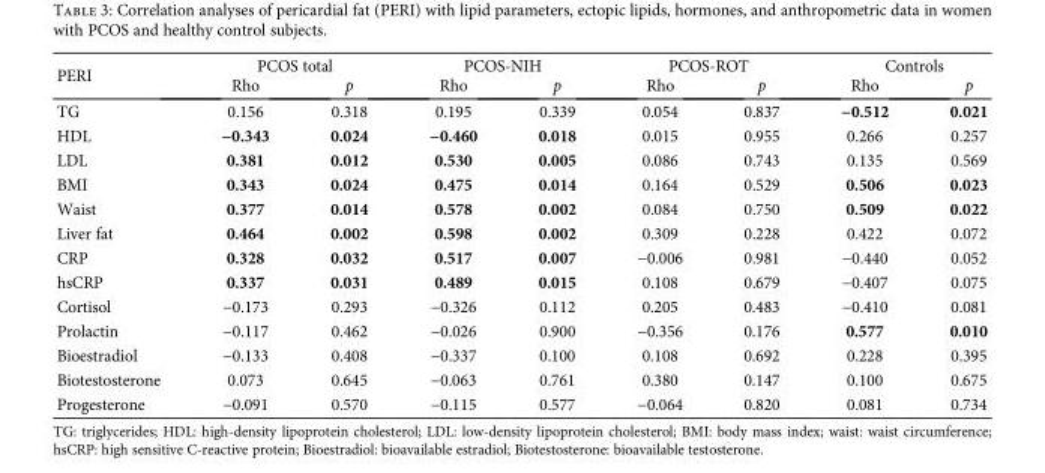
<table><thead><tr><td rowspan="2">PERI</td><td colspan="2">PCOS total</td><td colspan="2">PCOS-NIH</td><td colspan="2">PCOS-ROT</td><td colspan="2">Controls</td></tr><tr><td>Rho</td><td>p</td><td>Rho</td><td>p</td><td>Rho</td><td>p</td><td>Rho</td><td>p</td></tr></thead><tbody><tr><td>TG</td><td>0.156</td><td>0.318</td><td>0.195</td><td>0.339</td><td>0.054</td><td>0.837</td><td>−0.512</td><td>0.021</td></tr><tr><td>HDL</td><td>−0.343</td><td>0.024</td><td>−0.460</td><td>0.018</td><td>0.015</td><td>0.955</td><td>0.266</td><td>0.257</td></tr><tr><td>LDL</td><td>0.381</td><td>0.012</td><td>0.530</td><td>0.005</td><td>0.086</td><td>0.743</td><td>0.135</td><td>0.569</td></tr><tr><td>BMI</td><td>0.343</td><td>0.024</td><td>0.475</td><td>0.014</td><td>0.164</td><td>0.529</td><td>0.506</td><td>0.023</td></tr><tr><td>Waist</td><td>0.377</td><td>0.014</td><td>0.578</td><td>0.002</td><td>0.084</td><td>0.750</td><td>0.509</td><td>0.022</td></tr><tr><td>Liver fat</td><td>0.464</td><td>0.002</td><td>0.598</td><td>0.002</td><td>0.309</td><td>0.228</td><td>0.422</td><td>0.072</td></tr><tr><td>CRP</td><td>0.328</td><td>0.032</td><td>0.517</td><td>0.007</td><td>−0.006</td><td>0.981</td><td>−0.440</td><td>0.052</td></tr><tr><td>hsCRP</td><td>0.337</td><td>0.031</td><td>0.489</td><td>0.015</td><td>0.108</td><td>0.679</td><td>−0.407</td><td>0.075</td></tr><tr><td>Cortisol</td><td>−0.173</td><td>0.293</td><td>−0.326</td><td>0.112</td><td>0.205</td><td>0.483</td><td>−0.410</td><td>0.081</td></tr><tr><td>Prolactin</td><td>−0.117</td><td>0.462</td><td>−0.026</td><td>0.900</td><td>−0.356</td><td>0.176</td><td>0.577</td><td>0.010</td></tr><tr><td>Bioestradiol</td><td>−0.133</td><td>0.408</td><td>−0.337</td><td>0.100</td><td>0.108</td><td>0.692</td><td>0.228</td><td>0.395</td></tr><tr><td>Biotestosterone</td><td>0.073</td><td>0.645</td><td>−0.063</td><td>0.761</td><td>0.380</td><td>0.147</td><td>0.100</td><td>0.675</td></tr><tr><td>Progesterone</td><td>−0.091</td><td>0.570</td><td>−0.115</td><td>0.577</td><td>−0.064</td><td>0.820</td><td>0.081</td><td>0.734</td></tr></tbody></table>